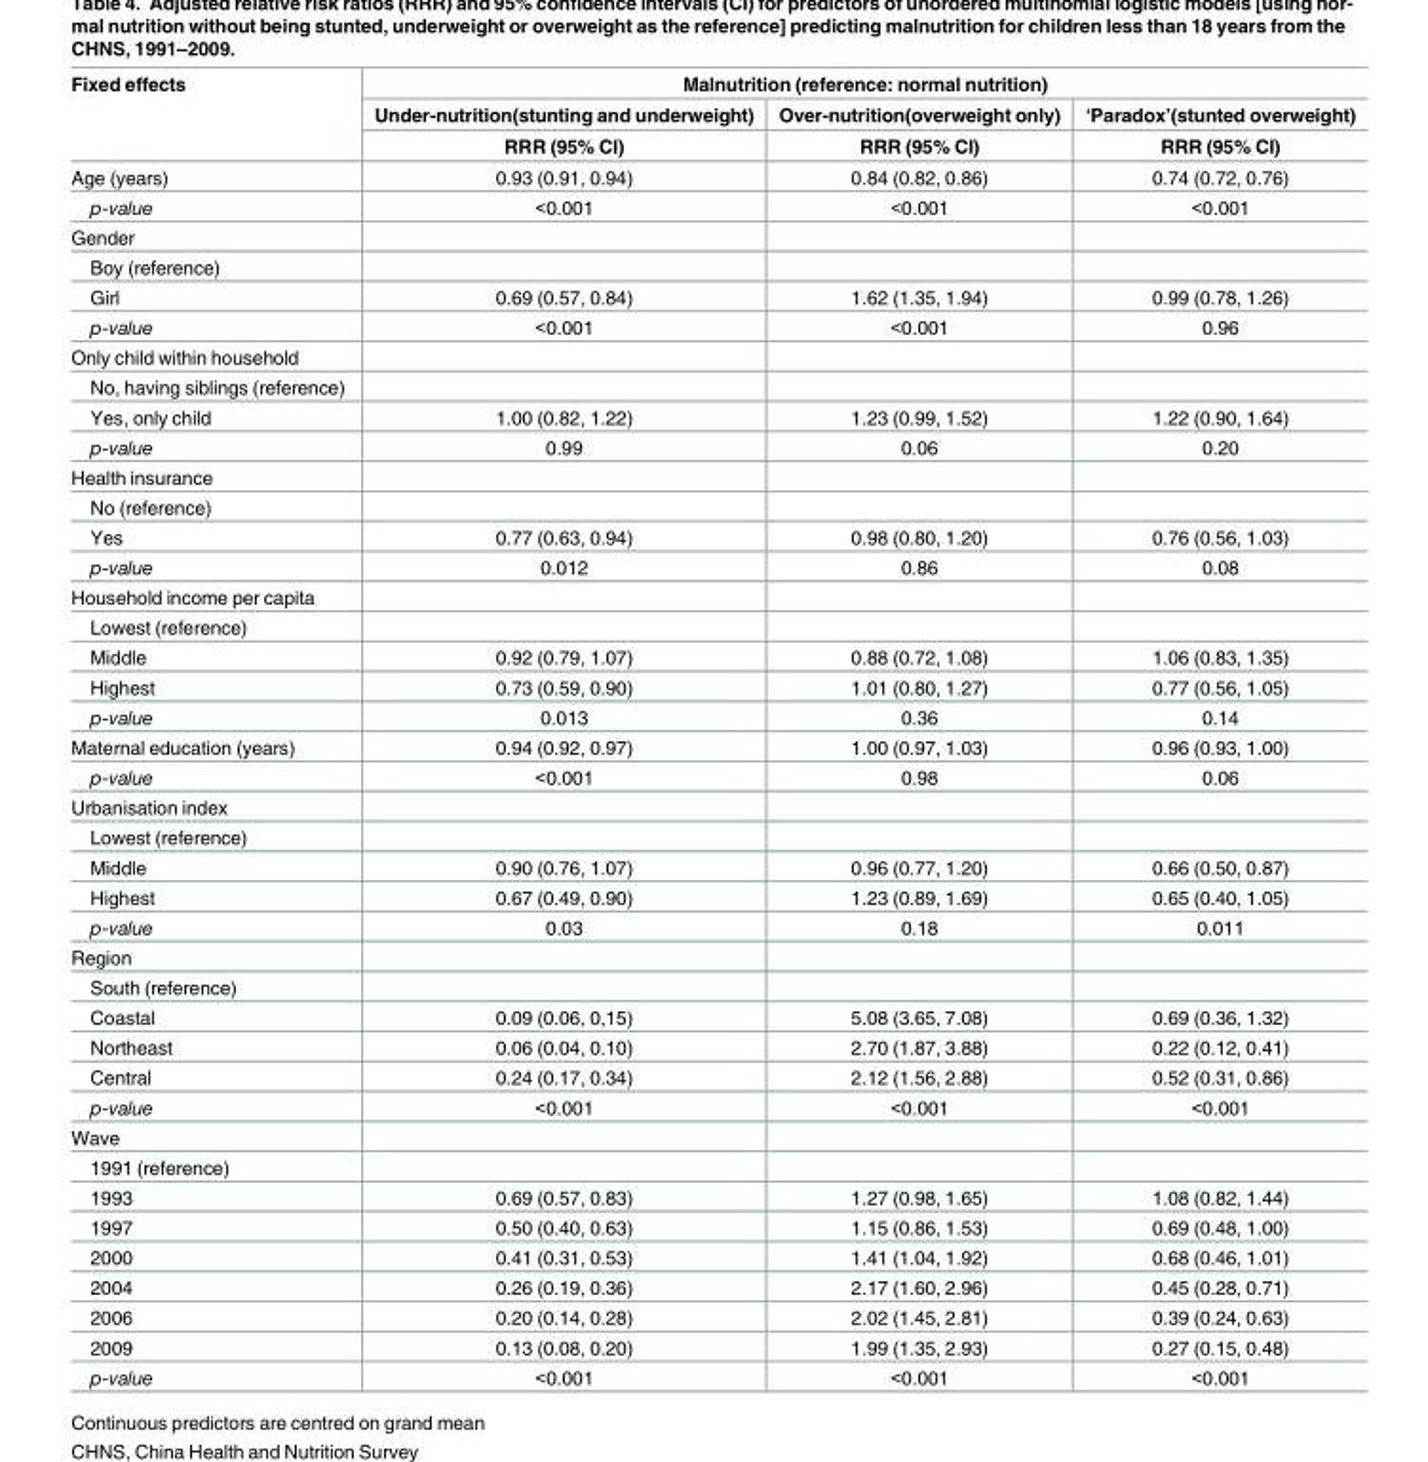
<table><thead><tr><td rowspan="3">Fixed effects</td><td colspan="3">Malnutrition (reference: normal nutrition)</td></tr><tr><td rowspan="2">Under-nutrition(stunting and underweight) RRR (95% CI)</td><td rowspan="2">Over-nutrition(overweight only) RRR (95% CI)</td><td rowspan="2">‘Paradox’(stunted overweight) RRR (95% CI)</td></tr><tr></tr></thead><tbody><tr><td>Age (years)</td><td>0.93 (0.91, 0.94)</td><td>0.84 (0.82, 0.86)</td><td>0.74 (0.72, 0.76)</td></tr><tr><td>p-value</td><td>&lt;0.001</td><td>&lt;0.001</td><td>&lt;0.001</td></tr><tr><td colspan="4">Gender</td></tr><tr><td colspan="4">Boy (reference)</td></tr><tr><td>Girl</td><td>0.69 (0.57, 0.84)</td><td>1.62 (1.35, 1.94)</td><td>0.99 (0.78, 1.26)</td></tr><tr><td>p-value</td><td>&lt;0.001</td><td>&lt;0.001</td><td>0.96</td></tr><tr><td colspan="4">Only child within household</td></tr><tr><td colspan="4">No, having siblings (reference)</td></tr><tr><td>Yes, only child</td><td>1.00 (0.82, 1.22)</td><td>1.23 (0.99, 1.52)</td><td>1.22 (0.90, 1.64)</td></tr><tr><td>p-value</td><td>0.99</td><td>0.06</td><td>0.20</td></tr><tr><td colspan="4">Health insurance</td></tr><tr><td colspan="4">No (reference)</td></tr><tr><td>Yes</td><td>0.77 (0.63, 0.94)</td><td>0.98 (0.80, 1.20)</td><td>0.76 (0.56, 1.03)</td></tr><tr><td>p-value</td><td>0.012</td><td>0.86</td><td>0.08</td></tr><tr><td colspan="4">Household income per capita</td></tr><tr><td colspan="4">Lowest (reference)</td></tr><tr><td>Middle</td><td>0.92 (0.79, 1.07)</td><td>0.88 (0.72, 1.08)</td><td>1.06 (0.83, 1.35)</td></tr><tr><td>Highest</td><td>0.73 (0.59, 0.90)</td><td>1.01 (0.80, 1.27)</td><td>0.77 (0.56, 1.05)</td></tr><tr><td>p-value</td><td>0.013</td><td>0.36</td><td>0.14</td></tr><tr><td>Maternal education (years)</td><td>0.94 (0.92, 0.97)</td><td>1.00 (0.97, 1.03)</td><td>0.96 (0.93, 1.00)</td></tr><tr><td>p-value</td><td>&lt;0.001</td><td>0.98</td><td>0.06</td></tr><tr><td colspan="4">Urbanisation index</td></tr><tr><td colspan="4">Lowest (reference)</td></tr><tr><td>Middle</td><td>0.90 (0.76, 1.07)</td><td>0.96 (0.77, 1.20)</td><td>0.66 (0.50, 0.87)</td></tr><tr><td>Highest</td><td>0.67 (0.49, 0.90)</td><td>1.23 (0.89, 1.69)</td><td>0.65 (0.40, 1.05)</td></tr><tr><td>p-value</td><td>0.03</td><td>0.18</td><td>0.011</td></tr><tr><td colspan="4">Region</td></tr><tr><td colspan="4">South (reference)</td></tr><tr><td>Coastal</td><td>0.09 (0.06, 0,15)</td><td>5.08 (3.65, 7.08)</td><td>0.69 (0.36, 1.32)</td></tr><tr><td>Northeast</td><td>0.06 (0.04, 0.10)</td><td>2.70 (1.87, 3.88)</td><td>0.22 (0.12, 0.41)</td></tr><tr><td>Central</td><td>0.24 (0.17, 0.34)</td><td>2.12 (1.56, 2.88)</td><td>0.52 (0.31, 0.86)</td></tr><tr><td>p-value</td><td>&lt;0.001</td><td>&lt;0.001</td><td>&lt;0.001</td></tr><tr><td colspan="4">Wave</td></tr><tr><td colspan="4">1991 (reference)</td></tr><tr><td>1993</td><td>0.69 (0.57, 0.83)</td><td>1.27 (0.98, 1.65)</td><td>1.08 (0.82, 1.44)</td></tr><tr><td>1997</td><td>0.50 (0.40, 0.63)</td><td>1.15 (0.86, 1.53)</td><td>0.69 (0.48, 1.00)</td></tr><tr><td>2000</td><td>0.41 (0.31, 0.53)</td><td>1.41 (1.04, 1.92)</td><td>0.68 (0.46, 1.01)</td></tr><tr><td>2004</td><td>0.26 (0.19, 0.36)</td><td>2.17 (1.60, 2.96)</td><td>0.45 (0.28, 0.71)</td></tr><tr><td>2006</td><td>0.20 (0.14, 0.28)</td><td>2.02 (1.45, 2.81)</td><td>0.39 (0.24, 0.63)</td></tr><tr><td>2009</td><td>0.13 (0.08, 0.20)</td><td>1.99 (1.35, 2.93)</td><td>0.27 (0.15, 0.48)</td></tr><tr><td>p-value</td><td>&lt;0.001</td><td>&lt;0.001</td><td>&lt;0.001</td></tr></tbody></table>